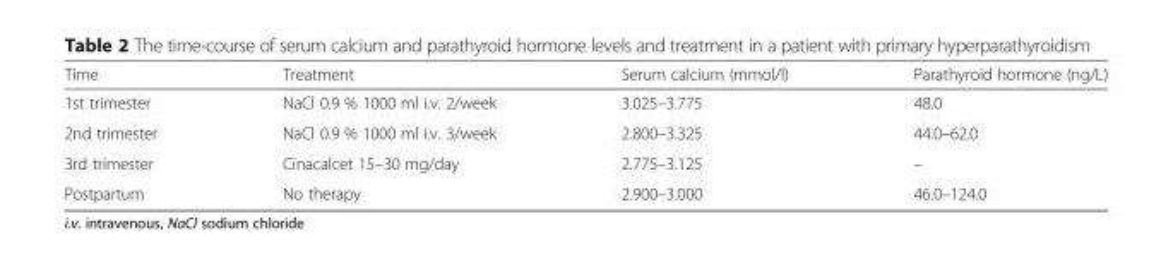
<table><thead><tr><td>Time</td><td>Treatment</td><td>Serum calcium (mmol/l)</td><td>Parathyroid hormone (ng/L)</td></tr></thead><tbody><tr><td>1st trimester</td><td>NaCl 0.9 % 1000 ml i.v. 2/week</td><td>3.025–3.775</td><td>48.0</td></tr><tr><td>2nd trimester</td><td>NaCl 0.9 % 1000 ml i.v. 3/week</td><td>2.800–3.325</td><td>44.0–62.0</td></tr><tr><td>3rd trimester</td><td>Cinacalcet 15–30 mg/day</td><td>2.775–3.125</td><td>–</td></tr><tr><td>Postpartum</td><td>No therapy</td><td>2.900–3.000</td><td>46.0–124.0</td></tr></tbody></table>